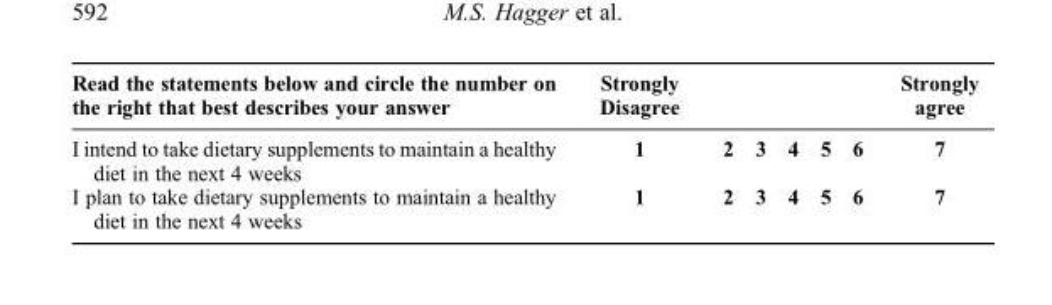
<table><thead><tr><td>Read the statements below and circle the number on the right that best describes your answer</td><td>Strongly Disagree</td><td></td><td></td><td></td><td></td><td></td><td>Strongly agree</td></tr></thead><tbody><tr><td>I intend to take dietary supplements to maintain a healthy diet in the next 4 weeks</td><td>1</td><td>2</td><td>3</td><td>4</td><td>5</td><td>6</td><td>7</td></tr><tr><td>I plan to take dietary supplements to maintain a healthy diet in the next 4 weeks</td><td>1</td><td>2</td><td>3</td><td>4</td><td>5</td><td>6</td><td>7</td></tr></tbody></table>